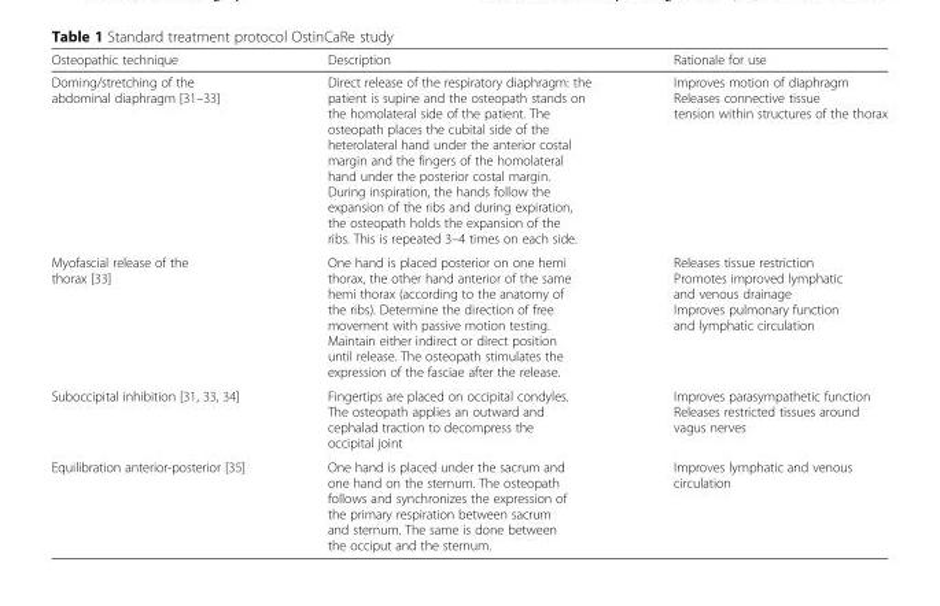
<table><thead><tr><td>Osteopathic technique</td><td>Description</td><td>Rationale for use</td></tr></thead><tbody><tr><td>Doming/stretching of the abdominal diaphragm [31–33]</td><td>Direct release of the respiratory diaphragm: the patient is supine and the osteopath stands on the homolateral side of the patient. The osteopath places the cubital side of the heterolateral hand under the anterior costal margin and the fingers of the homolateral hand under the posterior costal margin. During inspiration, the hands follow the expansion of the ribs and during expiration, the osteopath holds the expansion of the ribs. This is repeated 3–4 times on each side.</td><td>Improves motion of diaphragm Releases connective tissue tension within structures of the thorax</td></tr><tr><td>Myofascial release of the thorax [33]</td><td>One hand is placed posterior on one hemi thorax, the other hand anterior of the same hemi thorax (according to the anatomy of the ribs). Determine the direction of free movement with passive motion testing. Maintain either indirect or direct position until release. The osteopath stimulates the expression of the fasciae after the release.</td><td>Releases tissue restriction Promotes improved lymphatic and venous drainage Improves pulmonary function and lymphatic circulation</td></tr><tr><td>Suboccipital inhibition [31, 33, 34]</td><td>Fingertips are placed on occipital condyles. The osteopath applies an outward and cephalad traction to decompress the occipital joint</td><td>Improves parasympathetic function Releases restricted tissues around vagus nerves</td></tr><tr><td>Equilibration anterior-posterior [35]</td><td>One hand is placed under the sacrum and one hand on the sternum. The osteopath follows and synchronizes the expression of the primary respiration between sacrum and sternum. The same is done between the occiput and the sternum.</td><td>Improves lymphatic and venous circulation</td></tr></tbody></table>